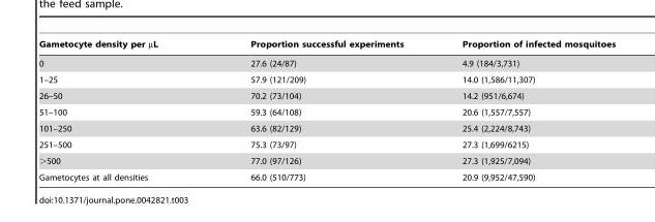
<table><thead><tr><td>Gametocyte density per µL</td><td>Proportion successful experiments</td><td>Proportion of infected mosquitoes</td></tr></thead><tbody><tr><td>0</td><td>27.6 (24/87)</td><td>4.9 (184/3,731)</td></tr><tr><td>1–25</td><td>57.9 (121/209)</td><td>14.0 (1,586/11,307)</td></tr><tr><td>26–50</td><td>70.2 (73/104)</td><td>14.2 (951/6,674)</td></tr><tr><td>51–100</td><td>59.3 (64/108)</td><td>20.6 (1,557/7,557)</td></tr><tr><td>101–250</td><td>63.6 (82/129)</td><td>25.4 (2,224/8,743)</td></tr><tr><td>251–500</td><td>75.3 (73/97)</td><td>27.3 (1,699/6215)</td></tr><tr><td>&gt;500</td><td>77.0 (97/126)</td><td>27.3 (1,925/7,094)</td></tr><tr><td>Gametocytes at all densities</td><td>66.0 (510/773)</td><td>20.9 (9,952/47,590)</td></tr></tbody></table>